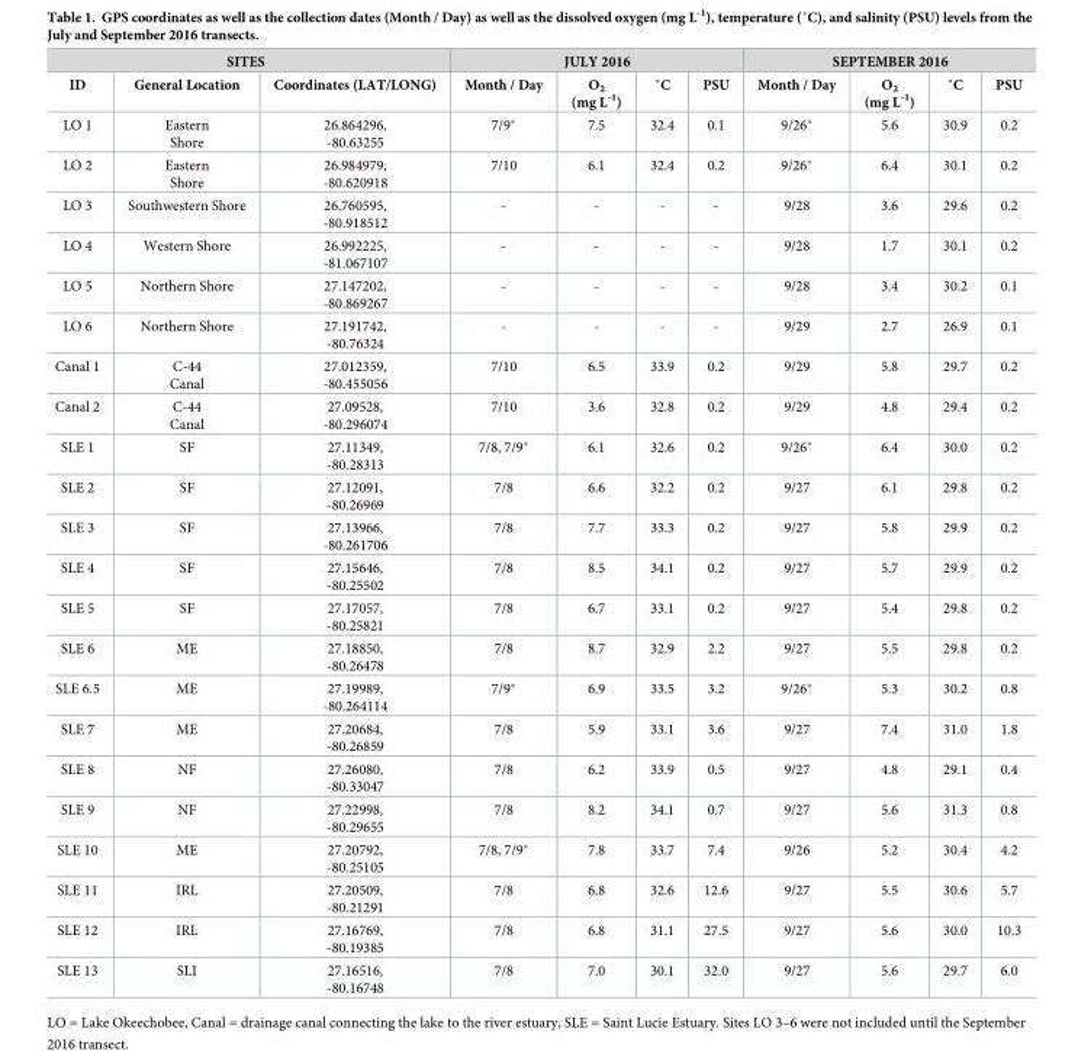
<table><thead><tr><td colspan="3">SITES</td><td colspan="4">JULY 2016</td><td colspan="4">SEPTEMBER 2016</td></tr><tr><td>ID</td><td>General Location</td><td>Coordinates (LAT/LONG)</td><td>Month / Day</td><td>O<sub>2</sub> (mg L<sup>-1</sup>)</td><td>˚C</td><td>PSU</td><td>Month / Day</td><td>O<sub>2</sub> (mg L<sup>-1</sup>)</td><td>˚C</td><td>PSU</td></tr></thead><tbody><tr><td>LO 1</td><td>Eastern Shore</td><td>26.864296, -80.63255</td><td>7/9*</td><td>7.5</td><td>32.4</td><td>0.1</td><td>9/26*</td><td>5.6</td><td>30.9</td><td>0.2</td></tr><tr><td>LO 2</td><td>Eastern Shore</td><td>26.984979, -80.620918</td><td>7/10</td><td>6.1</td><td>32.4</td><td>0.2</td><td>9/26*</td><td>6.4</td><td>30.1</td><td>0.2</td></tr><tr><td>LO 3</td><td>Southwestern Shore</td><td>26.760595, -80.918512</td><td>-</td><td>-</td><td>-</td><td>-</td><td>9/28</td><td>3.6</td><td>29.6</td><td>0.2</td></tr><tr><td>LO 4</td><td>Western Shore</td><td>26.992225, -81.067107</td><td>-</td><td>-</td><td>-</td><td>-</td><td>9/28</td><td>1.7</td><td>30.1</td><td>0.2</td></tr><tr><td>LO 5</td><td>Northern Shore</td><td>27.147202, -80.869267</td><td>-</td><td>-</td><td>-</td><td>-</td><td>9/28</td><td>3.4</td><td>30.2</td><td>0.1</td></tr><tr><td>LO 6</td><td>Northern Shore</td><td>27.191742, -80.76324</td><td>-</td><td>-</td><td>-</td><td>-</td><td>9/29</td><td>2.7</td><td>26.9</td><td>0.1</td></tr><tr><td>Canal 1</td><td>C-44 Canal</td><td>27.012359, -80.455056</td><td>7/10</td><td>6.5</td><td>33.9</td><td>0.2</td><td>9/29</td><td>5.8</td><td>29.7</td><td>0.2</td></tr><tr><td>Canal 2</td><td>C-44 Canal</td><td>27.09528, -80.296074</td><td>7/10</td><td>3.6</td><td>32.8</td><td>0.2</td><td>9/29</td><td>4.8</td><td>29.4</td><td>0.2</td></tr><tr><td>SLE 1</td><td>SF</td><td>27.11349, -80.28313</td><td>7/8, 7/9*</td><td>6.1</td><td>32.6</td><td>0.2</td><td>9/26*</td><td>6.4</td><td>30.0</td><td>0.2</td></tr><tr><td>SLE 2</td><td>SF</td><td>27.12091, -80.26969</td><td>7/8</td><td>6.6</td><td>32.2</td><td>0.2</td><td>9/27</td><td>6.1</td><td>29.8</td><td>0.2</td></tr><tr><td>SLE 3</td><td>SF</td><td>27.13966, -80.261706</td><td>7/8</td><td>7.7</td><td>33.3</td><td>0.2</td><td>9/27</td><td>5.8</td><td>29.9</td><td>0.2</td></tr><tr><td>SLE 4</td><td>SF</td><td>27.15646, -80.25502</td><td>7/8</td><td>8.5</td><td>34.1</td><td>0.2</td><td>9/27</td><td>5.7</td><td>29.9</td><td>0.2</td></tr><tr><td>SLE 5</td><td>SF</td><td>27.17057, -80.25821</td><td>7/8</td><td>6.7</td><td>33.1</td><td>0.2</td><td>9/27</td><td>5.4</td><td>29.8</td><td>0.2</td></tr><tr><td>SLE 6</td><td>ME</td><td>27.18850, -80.26478</td><td>7/8</td><td>8.7</td><td>32.9</td><td>2.2</td><td>9/27</td><td>5.5</td><td>29.8</td><td>0.2</td></tr><tr><td>SLE 6.5</td><td>ME</td><td>27.19989, -80.264114</td><td>7/9*</td><td>6.9</td><td>33.5</td><td>3.2</td><td>9/26*</td><td>5.3</td><td>30.2</td><td>0.8</td></tr><tr><td>SLE 7</td><td>ME</td><td>27.20684, -80.26859</td><td>7/8</td><td>5.9</td><td>33.1</td><td>3.6</td><td>9/27</td><td>7.4</td><td>31.0</td><td>1.8</td></tr><tr><td>SLE 8</td><td>NF</td><td>27.26080, -80.33047</td><td>7/8</td><td>6.2</td><td>33.9</td><td>0.5</td><td>9/27</td><td>4.8</td><td>29.1</td><td>0.4</td></tr><tr><td>SLE 9</td><td>NF</td><td>27.22998, -80.29655</td><td>7/8</td><td>8.2</td><td>34.1</td><td>0.7</td><td>9/27</td><td>5.6</td><td>31.3</td><td>0.8</td></tr><tr><td>SLE 10</td><td>ME</td><td>27.20792, -80.25105</td><td>7/8, 7/9*</td><td>7.8</td><td>33.7</td><td>7.4</td><td>9/26</td><td>5.2</td><td>30.4</td><td>4.2</td></tr><tr><td>SLE 11</td><td>IRL</td><td>27.20509, -80.21291</td><td>7/8</td><td>6.8</td><td>32.6</td><td>12.6</td><td>9/27</td><td>5.5</td><td>30.6</td><td>5.7</td></tr><tr><td>SLE 12</td><td>IRL</td><td>27.16769, -80.19385</td><td>7/8</td><td>6.8</td><td>31.1</td><td>27.5</td><td>9/27</td><td>5.6</td><td>30.0</td><td>10.3</td></tr><tr><td>SLE 13</td><td>SLI</td><td>27.16516, -80.16748</td><td>7/8</td><td>7.0</td><td>30.1</td><td>32.0</td><td>9/27</td><td>5.6</td><td>29.7</td><td>6.0</td></tr></tbody></table>